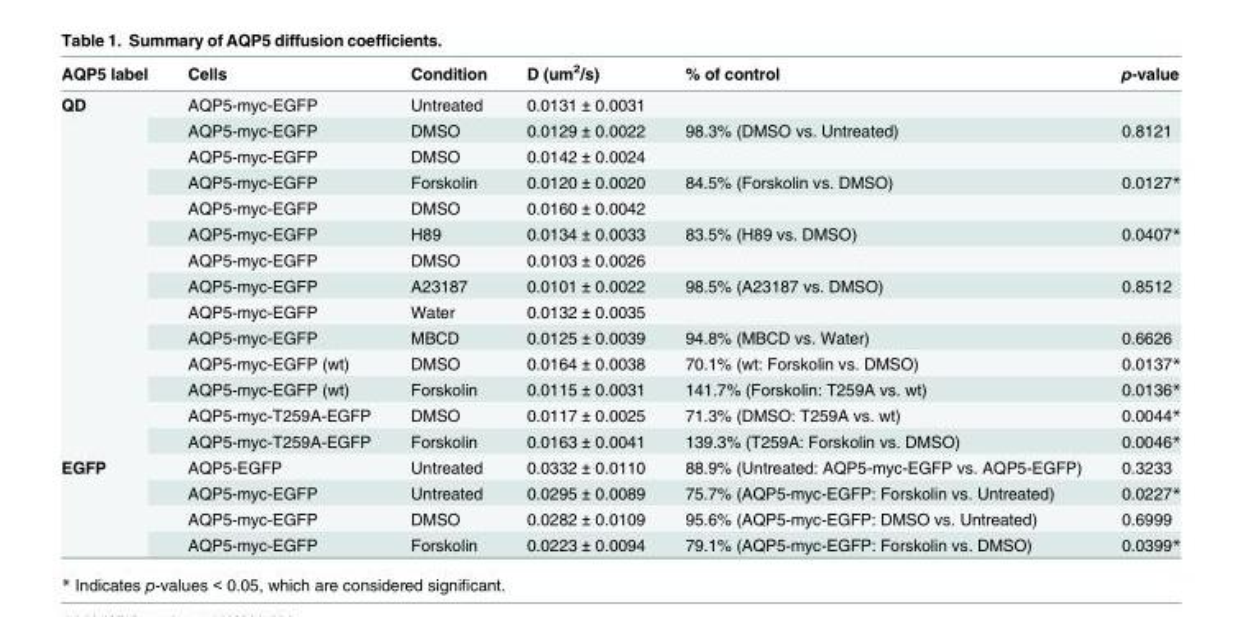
<table><thead><tr><td>AQP5 label</td><td>Cells</td><td>Condition</td><td>D (um<sup>2</sup>/s)</td><td>% of control</td><td>p-value</td></tr></thead><tbody><tr><td rowspan="14">QD</td><td>AQP5-myc-EGFP</td><td>Untreated</td><td>0.0131 ± 0.0031</td><td></td><td></td></tr><tr><td>AQP5-myc-EGFP</td><td>DMSO</td><td>0.0129 ± 0.0022</td><td>98.3% (DMSO vs. Untreated)</td><td>0.8121</td></tr><tr><td>AQP5-myc-EGFP</td><td>DMSO</td><td>0.0142 ± 0.0024</td><td></td><td></td></tr><tr><td>AQP5-myc-EGFP</td><td>Forskolin</td><td>0.0120 ± 0.0020</td><td>84.5% (Forskolin vs. DMSO)</td><td>0.0127*</td></tr><tr><td>AQP5-myc-EGFP</td><td>DMSO</td><td>0.0160 ± 0.0042</td><td></td><td></td></tr><tr><td>AQP5-myc-EGFP</td><td>H89</td><td>0.0134 ± 0.0033</td><td>83.5% (H89 vs. DMSO)</td><td>0.0407*</td></tr><tr><td>AQP5-myc-EGFP</td><td>DMSO</td><td>0.0103 ± 0.0026</td><td></td><td></td></tr><tr><td>AQP5-myc-EGFP</td><td>A23187</td><td>0.0101 ± 0.0022</td><td>98.5% (A23187 vs. DMSO)</td><td>0.8512</td></tr><tr><td>AQP5-myc-EGFP</td><td>Water</td><td>0.0132 ± 0.0035</td><td></td><td></td></tr><tr><td>AQP5-myc-EGFP</td><td>MBCD</td><td>0.0125 ± 0.0039</td><td>94.8% (MBCD vs. Water)</td><td>0.6626</td></tr><tr><td>AQP5-myc-EGFP (wt)</td><td>DMSO</td><td>0.0164 ± 0.0038</td><td>70.1% (wt: Forskolin vs. DMSO)</td><td>0.0137*</td></tr><tr><td>AQP5-myc-EGFP (wt)</td><td>Forskolin</td><td>0.0115 ± 0.0031</td><td>141.7% (Forskolin: T259A vs. wt)</td><td>0.0136*</td></tr><tr><td>AQP5-myc-T259A-EGFP</td><td>DMSO</td><td>0.0117 ± 0.0025</td><td>71.3% (DMSO: T259A vs. wt)</td><td>0.0044*</td></tr><tr><td>AQP5-myc-T259A-EGFP</td><td>Forskolin</td><td>0.0163 ± 0.0041</td><td>139.3% (T259A: Forskolin vs. DMSO)</td><td>0.0046*</td></tr><tr><td rowspan="4">EGFP</td><td>AQP5-EGFP</td><td>Untreated</td><td>0.0332 ± 0.0110</td><td>88.9% (Untreated: AQP5-myc-EGFP vs. AQP5-EGFP)</td><td>0.3233</td></tr><tr><td>AQP5-myc-EGFP</td><td>Untreated</td><td>0.0295 ± 0.0089</td><td>75.7% (AQP5-myc-EGFP: Forskolin vs. Untreated)</td><td>0.0227*</td></tr><tr><td>AQP5-myc-EGFP</td><td>DMSO</td><td>0.0282 ± 0.0109</td><td>95.6% (AQP5-myc-EGFP: DMSO vs. Untreated)</td><td>0.6999</td></tr><tr><td>AQP5-myc-EGFP</td><td>Forskolin</td><td>0.0223 ± 0.0094</td><td>79.1% (AQP5-myc-EGFP: Forskolin vs. DMSO)</td><td>0.0399*</td></tr></tbody></table>